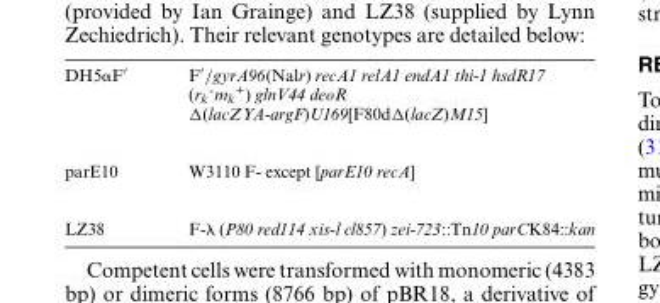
<table><tbody><tr><td>DH5αF′</td><td>F′/gyrA96(Nalr) recA1 relA1 endA1 thi-1 hsdR17 (r<sub>k</sub><sup>-</sup>m<sub>k</sub><sup>+</sup>) glnV44 deoR Δ(lacZYA-argF)U169[F80dΔ(lacZ)M15]</td></tr><tr><td>parE10</td><td>W3110 F- except [parE10 recA]</td></tr><tr><td>LZ38</td><td>F-λ (P80 red114 xis-l cl857) zei-723::Tn10 parCK84::kan</td></tr></tbody></table>